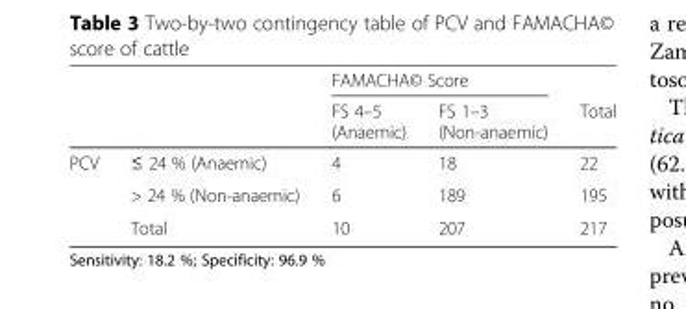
<table><thead><tr><td rowspan="2"></td><td rowspan="2"></td><td colspan="2">FAMACHA© Score</td><td rowspan="2">Total</td></tr><tr><td>FS 4–5 (Anaemic)</td><td>FS 1–3 (Non-anaemic)</td></tr></thead><tbody><tr><td rowspan="3">PCV</td><td>≤ 24 % (Anaemic)</td><td>4</td><td>18</td><td>22</td></tr><tr><td>&gt; 24 % (Non-anaemic)</td><td>6</td><td>189</td><td>195</td></tr><tr><td>Total</td><td>10</td><td>207</td><td>217</td></tr></tbody></table>